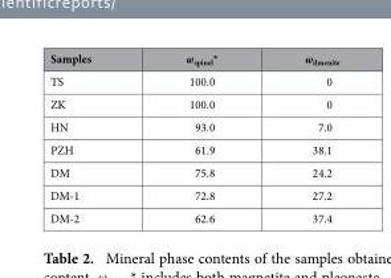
<table><thead><tr><td>Samples</td><td>ω<sub>spinel</sub>*</td><td>ω<sub>ilmenite</sub></td></tr></thead><tbody><tr><td>TS</td><td>100.0</td><td>0</td></tr><tr><td>ZK</td><td>100.0</td><td>0</td></tr><tr><td>HN</td><td>93.0</td><td>7.0</td></tr><tr><td>PZH</td><td>61.9</td><td>38.1</td></tr><tr><td>DM</td><td>75.8</td><td>24.2</td></tr><tr><td>DM-1</td><td>72.8</td><td>27.2</td></tr><tr><td>DM-2</td><td>62.6</td><td>37.4</td></tr></tbody></table>